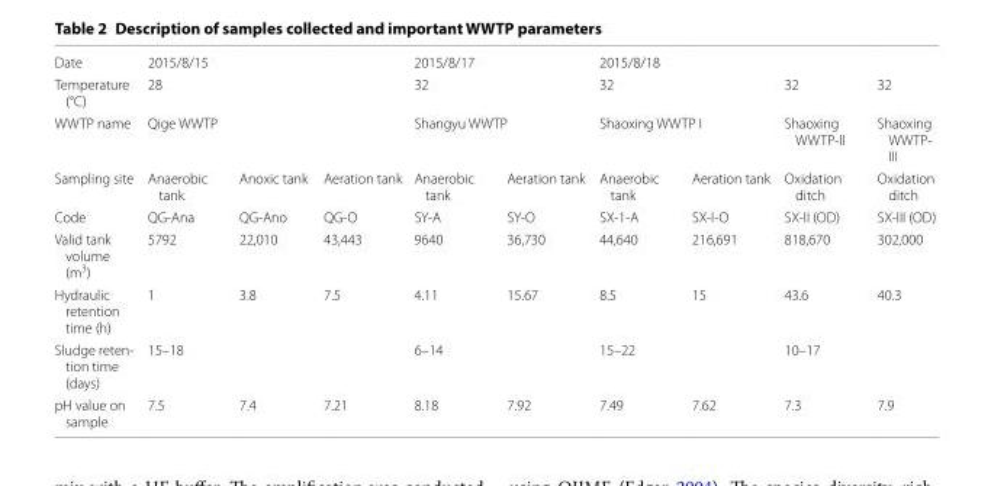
<table><tbody><tr><td>Date</td><td colspan="3">2015/8/15</td><td colspan="2">2015/8/17</td><td colspan="4">2015/8/18</td></tr><tr><td>Temperature (°C)</td><td colspan="3">28</td><td colspan="2">32</td><td colspan="2">32</td><td>32</td><td>32</td></tr><tr><td>WWTP name</td><td colspan="3">Qige WWTP</td><td colspan="2">Shangyu WWTP</td><td colspan="2">Shaoxing WWTP I</td><td>Shaoxing WWTP-II</td><td>Shaoxing WWTP- III</td></tr><tr><td>Sampling site</td><td>Anaerobic tank</td><td>Anoxic tank</td><td>Aeration tank</td><td>Anaerobic tank</td><td>Aeration tank</td><td>Anaerobic tank</td><td>Aeration tank</td><td>Oxidation ditch</td><td>Oxidation ditch</td></tr><tr><td>Code</td><td>QG-Ana</td><td>QG-Ano</td><td>QG-O</td><td>SY-A</td><td>SY-O</td><td>SX-1-A</td><td>SX-I-O</td><td>SX-II (OD)</td><td>SX-III (OD)</td></tr><tr><td>Valid tank volume (m<sup>3</sup>)</td><td>5792</td><td>22,010</td><td>43,443</td><td>9640</td><td>36,730</td><td>44,640</td><td>216,691</td><td>818,670</td><td>302,000</td></tr><tr><td>Hydraulic retention time (h)</td><td>1</td><td>3.8</td><td>7.5</td><td>4.11</td><td>15.67</td><td>8.5</td><td>15</td><td>43.6</td><td>40.3</td></tr><tr><td>Sludge reten- tion time (days)</td><td colspan="3">15–18</td><td colspan="2">6–14</td><td colspan="2">15–22</td><td colspan="2">10–17</td></tr><tr><td>pH value on sample</td><td>7.5</td><td>7.4</td><td>7.21</td><td>8.18</td><td>7.92</td><td>7.49</td><td>7.62</td><td>7.3</td><td>7.9</td></tr></tbody></table>